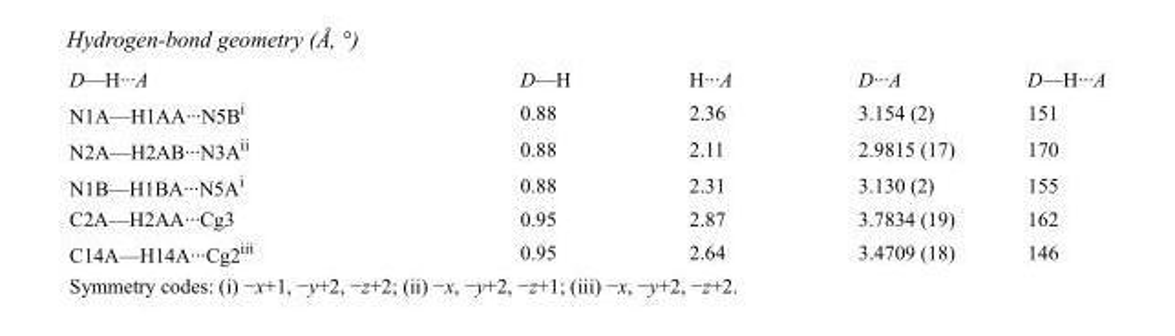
<table><tbody><tr><td>D—H···A</td><td>D—H</td><td>H···A</td><td>D···A</td><td>D—H···A</td></tr><tr><td>N1A—H1AA···N5B<sup>i</sup></td><td>0.88</td><td>2.36</td><td>3.154 (2)</td><td>151</td></tr><tr><td>N2A—H2AB···N3A<sup>ii</sup></td><td>0.88</td><td>2.11</td><td>2.9815 (17)</td><td>170</td></tr><tr><td>N1B—H1BA···N5A<sup>i</sup></td><td>0.88</td><td>2.31</td><td>3.130 (2)</td><td>155</td></tr><tr><td>C2A—H2AA···Cg3</td><td>0.95</td><td>2.87</td><td>3.7834 (19)</td><td>162</td></tr><tr><td>C14A—H14A···Cg2<sup>iii</sup></td><td>0.95</td><td>2.64</td><td>3.4709 (18)</td><td>146</td></tr></tbody></table>